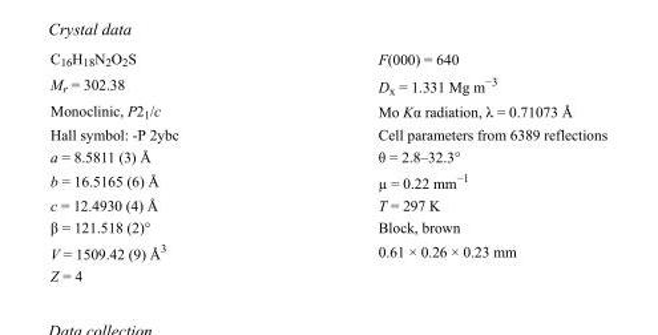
<table><tbody><tr><td>C<sub>16</sub>H<sub>18</sub>N<sub>2</sub>O<sub>2</sub>S</td><td>F(000) = 640</td></tr><tr><td>M<sub>r</sub> = 302.38</td><td>D<sub>x</sub> = 1.331 Mg m<sup>−3</sup></td></tr><tr><td>Monoclinic, P2<sub>1</sub>/c</td><td>Mo Kα radiation, λ = 0.71073 Å</td></tr><tr><td>Hall symbol: -P 2ybc</td><td>Cell parameters from 6389 reflections</td></tr><tr><td>a = 8.5811 (3) Å</td><td>θ = 2.8–32.3°</td></tr><tr><td>b = 16.5165 (6) Å</td><td>µ = 0.22 mm<sup>−1</sup></td></tr><tr><td>c = 12.4930 (4) Å</td><td>T = 297 K</td></tr><tr><td>β = 121.518 (2)°</td><td>Block, brown</td></tr><tr><td>V = 1509.42 (9) Å<sup>3</sup></td><td>0.61 × 0.26 × 0.23 mm</td></tr><tr><td>Z = 4</td><td></td></tr></tbody></table>